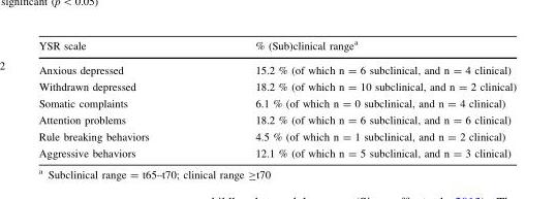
<table><thead><tr><td>YSR scale</td><td>% (Sub)clinical range<sup>a</sup></td></tr></thead><tbody><tr><td>Anxious depressed</td><td>15.2 % (of which n = 6 subclinical, and n = 4 clinical)</td></tr><tr><td>Withdrawn depressed</td><td>18.2 % (of which n = 10 subclinical, and n = 2 clinical)</td></tr><tr><td>Somatic complaints</td><td>6.1 % (of which n = 0 subclinical, and n = 4 clinical)</td></tr><tr><td>Attention problems</td><td>18.2 % (of which n = 6 subclinical, and n = 6 clinical)</td></tr><tr><td>Rule breaking behaviors</td><td>4.5 % (of which n = 1 subclinical, and n = 2 clinical)</td></tr><tr><td>Aggressive behaviors</td><td>12.1 % (of which n = 5 subclinical, and n = 3 clinical)</td></tr></tbody></table>